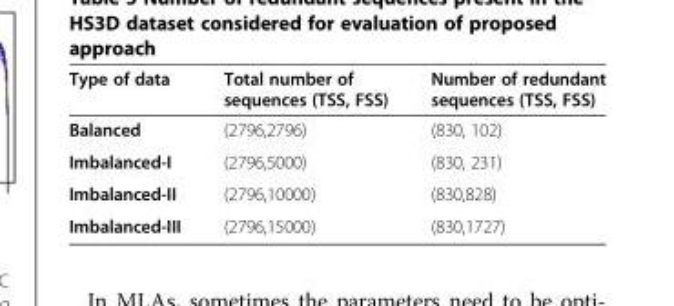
<table><thead><tr><td>Type of data</td><td>Total number of sequences (TSS, FSS)</td><td>Number of redundant sequences (TSS, FSS)</td></tr></thead><tbody><tr><td>Balanced</td><td>(2796,2796)</td><td>(830, 102)</td></tr><tr><td>Imbalanced-I</td><td>(2796,5000)</td><td>(830, 231)</td></tr><tr><td>Imbalanced-II</td><td>(2796,10000)</td><td>(830,828)</td></tr><tr><td>Imbalanced-III</td><td>(2796,15000)</td><td>(830,1727)</td></tr></tbody></table>